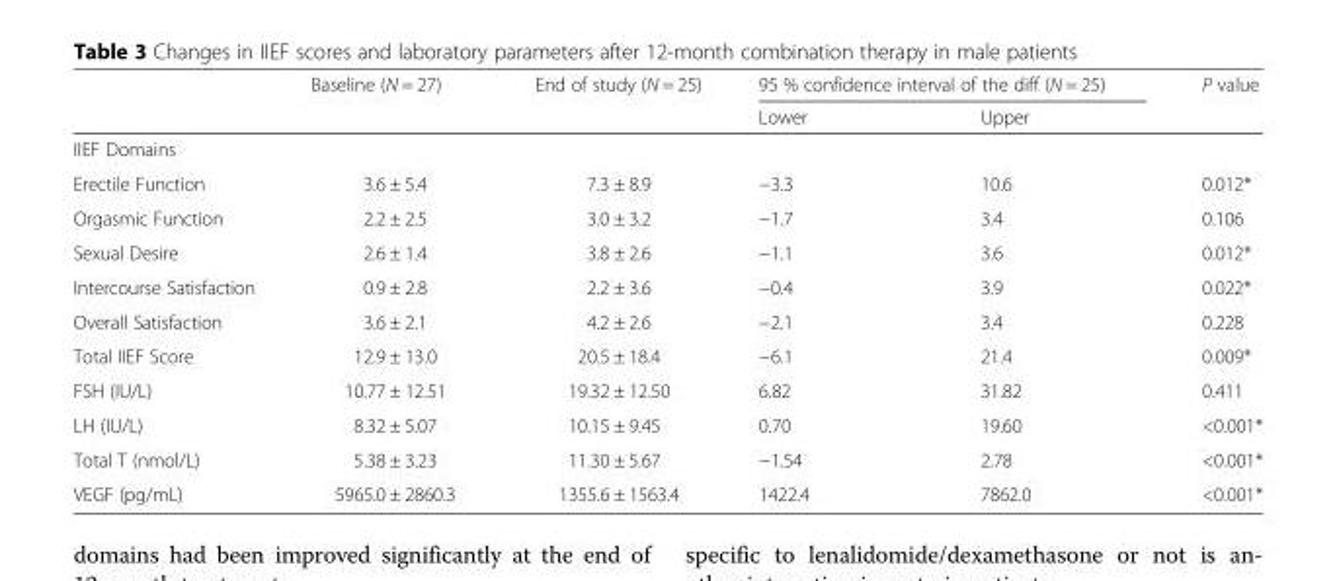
<table><thead><tr><td rowspan="2"></td><td rowspan="2">Baseline (N = 27)</td><td rowspan="2">End of study (N = 25)</td><td colspan="2">95 % confidence interval of the diff (N = 25)</td><td rowspan="2">P value</td></tr><tr><td>Lower</td><td>Upper</td></tr></thead><tbody><tr><td colspan="6">IIEF Domains</td></tr><tr><td>Erectile Function</td><td>3.6 ± 5.4</td><td>7.3 ± 8.9</td><td>−3.3</td><td>10.6</td><td>0.012*</td></tr><tr><td>Orgasmic Function</td><td>2.2 ± 2.5</td><td>3.0 ± 3.2</td><td>−1.7</td><td>3.4</td><td>0.106</td></tr><tr><td>Sexual Desire</td><td>2.6 ± 1.4</td><td>3.8 ± 2.6</td><td>−1.1</td><td>3.6</td><td>0.012*</td></tr><tr><td>Intercourse Satisfaction</td><td>0.9 ± 2.8</td><td>2.2 ± 3.6</td><td>−0.4</td><td>3.9</td><td>0.022*</td></tr><tr><td>Overall Satisfaction</td><td>3.6 ± 2.1</td><td>4.2 ± 2.6</td><td>−2.1</td><td>3.4</td><td>0.228</td></tr><tr><td>Total IIEF Score</td><td>12.9 ± 13.0</td><td>20.5 ± 18.4</td><td>−6.1</td><td>21.4</td><td>0.009*</td></tr><tr><td>FSH (IU/L)</td><td>10.77 ± 12.51</td><td>19.32 ± 12.50</td><td>6.82</td><td>31.82</td><td>0.411</td></tr><tr><td>LH (IU/L)</td><td>8.32 ± 5.07</td><td>10.15 ± 9.45</td><td>0.70</td><td>19.60</td><td>&lt;0.001*</td></tr><tr><td>Total T (nmol/L)</td><td>5.38 ± 3.23</td><td>11.30 ± 5.67</td><td>−1.54</td><td>2.78</td><td>&lt;0.001*</td></tr><tr><td>VEGF (pg/mL)</td><td>5965.0 ± 2860.3</td><td>1355.6 ± 1563.4</td><td>1422.4</td><td>7862.0</td><td>&lt;0.001*</td></tr></tbody></table>